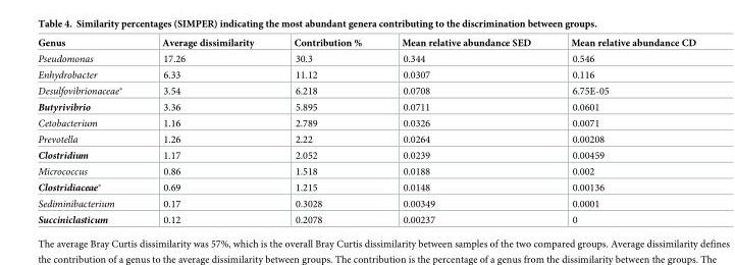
<table><thead><tr><td>Genus</td><td>Average dissimilarity</td><td>Contribution %</td><td>Mean relative abundance SED</td><td>Mean relative abundance CD</td></tr></thead><tbody><tr><td>Pseudomonas</td><td>17.26</td><td>30.3</td><td>0.344</td><td>0.546</td></tr><tr><td>Enhydrobacter</td><td>6.33</td><td>11.12</td><td>0.0307</td><td>0.116</td></tr><tr><td>Desulfovibrionaceae*</td><td>3.54</td><td>6.218</td><td>0.0708</td><td>6.75E-05</td></tr><tr><td>Butyrivibrio</td><td>3.36</td><td>5.895</td><td>0.0711</td><td>0.0601</td></tr><tr><td>Cetobacterium</td><td>1.16</td><td>2.789</td><td>0.0326</td><td>0.0071</td></tr><tr><td>Prevotella</td><td>1.26</td><td>2.22</td><td>0.0264</td><td>0.00208</td></tr><tr><td>Clostridium</td><td>1.17</td><td>2.052</td><td>0.0239</td><td>0.00459</td></tr><tr><td>Micrococcus</td><td>0.86</td><td>1.518</td><td>0.0188</td><td>0.002</td></tr><tr><td>Clostridiaceae*</td><td>0.69</td><td>1.215</td><td>0.0148</td><td>0.00136</td></tr><tr><td>Sediminibacterium</td><td>0.17</td><td>0.3028</td><td>0.00349</td><td>0.0001</td></tr><tr><td>Succiniclasticum</td><td>0.12</td><td>0.2078</td><td>0.00237</td><td>0</td></tr></tbody></table>